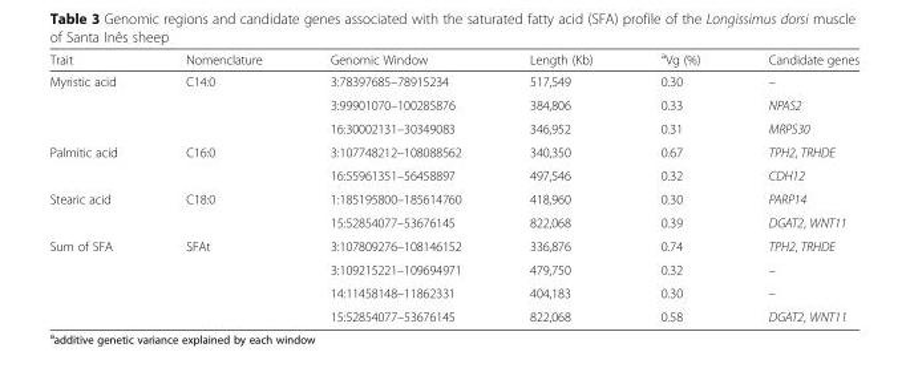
<table><thead><tr><td>Trait</td><td>Nomenclature</td><td>Genomic Window</td><td>Length (Kb)</td><td><sup>a</sup>Vg (%)</td><td>Candidate genes</td></tr></thead><tbody><tr><td rowspan="3">Myristic acid</td><td>C14:0</td><td>3:78397685–78915234</td><td>517,549</td><td>0.30</td><td>–</td></tr><tr><td></td><td>3:99901070–100285876</td><td>384,806</td><td>0.33</td><td>NPAS2</td></tr><tr><td></td><td>16:30002131–30349083</td><td>346,952</td><td>0.31</td><td>MRPS30</td></tr><tr><td rowspan="2">Palmitic acid</td><td>C16:0</td><td>3:107748212–108088562</td><td>340,350</td><td>0.67</td><td>TPH2, TRHDE</td></tr><tr><td></td><td>16:55961351–56458897</td><td>497,546</td><td>0.32</td><td>CDH12</td></tr><tr><td rowspan="2">Stearic acid</td><td>C18:0</td><td>1:185195800–185614760</td><td>418,960</td><td>0.30</td><td>PARP14</td></tr><tr><td></td><td>15:52854077–53676145</td><td>822,068</td><td>0.39</td><td>DGAT2, WNT11</td></tr><tr><td rowspan="4">Sum of SFA</td><td>SFAt</td><td>3:107809276–108146152</td><td>336,876</td><td>0.74</td><td>TPH2, TRHDE</td></tr><tr><td></td><td>3:109215221–109694971</td><td>479,750</td><td>0.32</td><td>–</td></tr><tr><td></td><td>14:11458148–11862331</td><td>404,183</td><td>0.30</td><td>–</td></tr><tr><td></td><td>15:52854077–53676145</td><td>822,068</td><td>0.58</td><td>DGAT2, WNT11</td></tr></tbody></table>